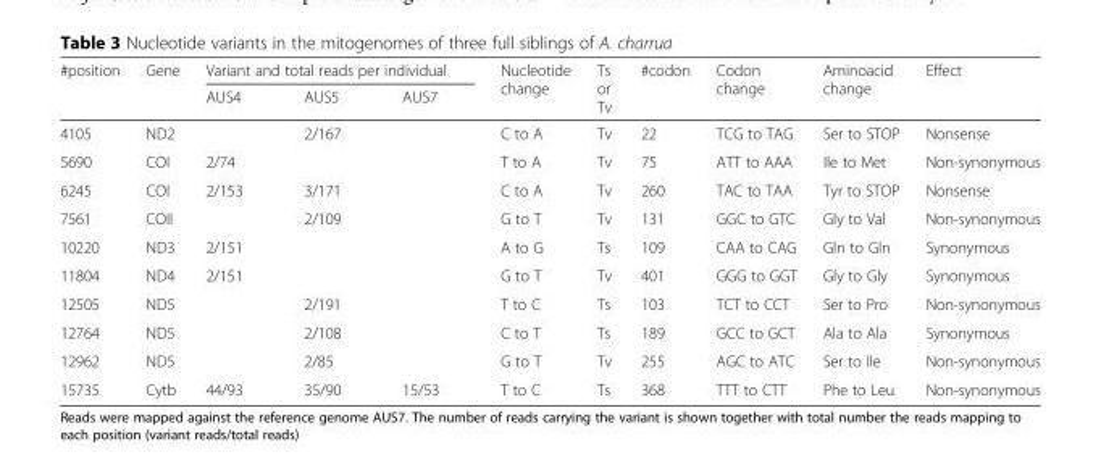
<table><thead><tr><td rowspan="2">#position</td><td rowspan="2">Gene</td><td colspan="3">Variant and total reads per individual</td><td rowspan="2">Nucleotide change</td><td rowspan="2">Ts or Tv</td><td rowspan="2">#codon</td><td rowspan="2">Codon change</td><td rowspan="2">Aminoacid change</td><td rowspan="2">Effect</td></tr><tr><td>AUS4</td><td>AUS5</td><td>AUS7</td></tr></thead><tbody><tr><td>4105</td><td>ND2</td><td></td><td>2/167</td><td></td><td>C to A</td><td>Tv</td><td>22</td><td>TCG to TAG</td><td>Ser to STOP</td><td>Nonsense</td></tr><tr><td>5690</td><td>COI</td><td>2/74</td><td></td><td></td><td>T to A</td><td>Tv</td><td>75</td><td>ATT to AAA</td><td>Ile to Met</td><td>Non-synonymous</td></tr><tr><td>6245</td><td>COI</td><td>2/153</td><td>3/171</td><td></td><td>C to A</td><td>Tv</td><td>260</td><td>TAC to TAA</td><td>Tyr to STOP</td><td>Nonsense</td></tr><tr><td>7561</td><td>COII</td><td></td><td>2/109</td><td></td><td>G to T</td><td>Tv</td><td>131</td><td>GGC to GTC</td><td>Gly to Val</td><td>Non-synonymous</td></tr><tr><td>10220</td><td>ND3</td><td>2/151</td><td></td><td></td><td>A to G</td><td>Ts</td><td>109</td><td>CAA to CAG</td><td>Gln to Gln</td><td>Synonymous</td></tr><tr><td>11804</td><td>ND4</td><td>2/151</td><td></td><td></td><td>G to T</td><td>Tv</td><td>401</td><td>GGG to GGT</td><td>Gly to Gly</td><td>Synonymous</td></tr><tr><td>12505</td><td>ND5</td><td></td><td>2/191</td><td></td><td>T to C</td><td>Ts</td><td>103</td><td>TCT to CCT</td><td>Ser to Pro</td><td>Non-synonymous</td></tr><tr><td>12764</td><td>ND5</td><td></td><td>2/108</td><td></td><td>C to T</td><td>Ts</td><td>189</td><td>GCC to GCT</td><td>Ala to Ala</td><td>Synonymous</td></tr><tr><td>12962</td><td>ND5</td><td></td><td>2/85</td><td></td><td>G to T</td><td>Tv</td><td>255</td><td>AGC to ATC</td><td>Ser to Ile</td><td>Non-synonymous</td></tr><tr><td>15735</td><td>Cytb</td><td>44/93</td><td>35/90</td><td>15/53</td><td>T to C</td><td>Ts</td><td>368</td><td>TTT to CTT</td><td>Phe to Leu</td><td>Non-synonymous</td></tr></tbody></table>